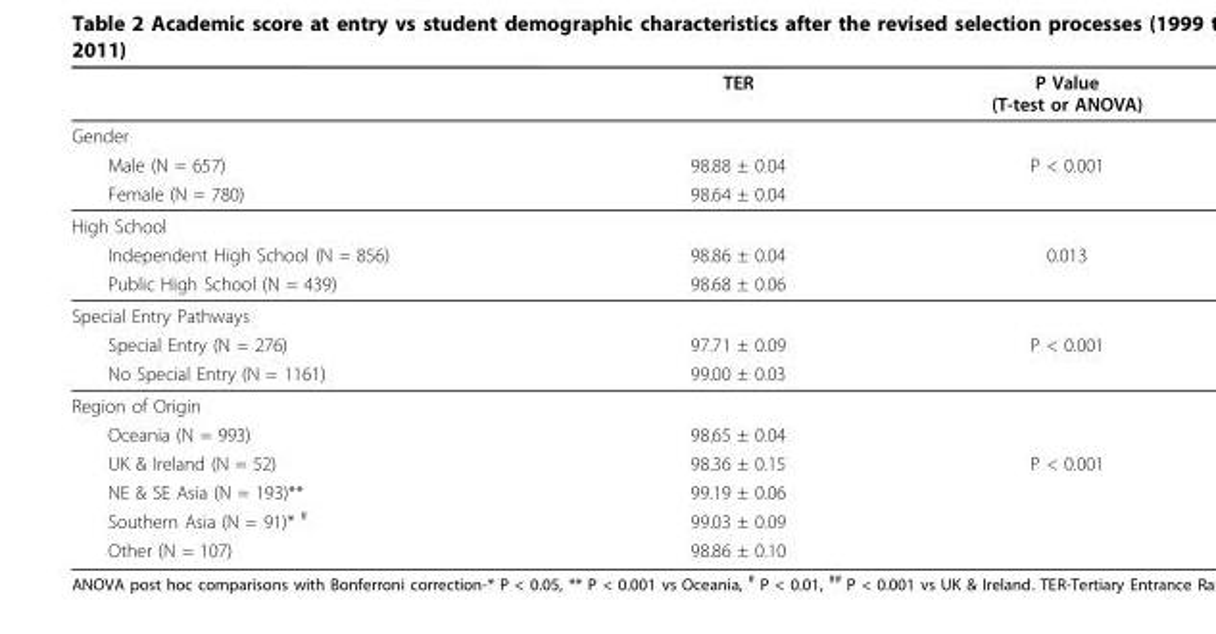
<table><thead><tr><td></td><td>TER</td><td>P Value (T-test or ANOVA)</td></tr></thead><tbody><tr><td colspan="3">Gender</td></tr><tr><td>Male (N = 657)</td><td>98.88 ± 0.04</td><td>P &lt; 0.001</td></tr><tr><td>Female (N = 780)</td><td>98.64 ± 0.04</td><td></td></tr><tr><td colspan="3">High School</td></tr><tr><td>Independent High School (N = 856)</td><td>98.86 ± 0.04</td><td>0.013</td></tr><tr><td>Public High School (N = 439)</td><td>98.68 ± 0.06</td><td></td></tr><tr><td colspan="3">Special Entry Pathways</td></tr><tr><td>Special Entry (N = 276)</td><td>97.71 ± 0.09</td><td>P &lt; 0.001</td></tr><tr><td>No Special Entry (N = 1161)</td><td>99.00 ± 0.03</td><td></td></tr><tr><td colspan="3">Region of Origin</td></tr><tr><td>Oceania (N = 993)</td><td>98.65 ± 0.04</td><td></td></tr><tr><td>UK &amp; Ireland (N = 52)</td><td>98.36 ± 0.15</td><td>P &lt; 0.001</td></tr><tr><td>NE &amp; SE Asia (N = 193)**</td><td>99.19 ± 0.06</td><td></td></tr><tr><td>Southern Asia (N = 91)* <sup>#</sup></td><td>99.03 ± 0.09</td><td></td></tr><tr><td>Other (N = 107)</td><td>98.86 ± 0.10</td><td></td></tr></tbody></table>